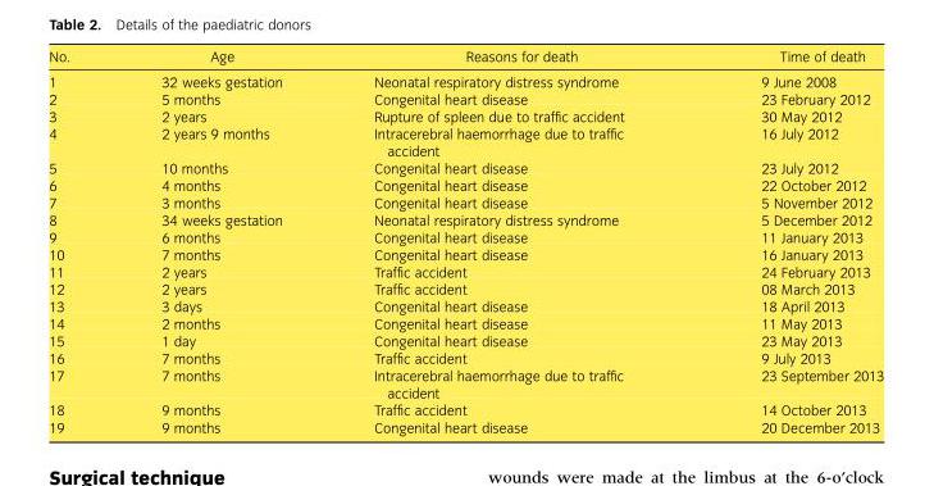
<table><thead><tr><td>No.</td><td>Age</td><td>Reasons for death</td><td>Time of death</td></tr></thead><tbody><tr><td>1</td><td>32 weeks gestation</td><td>Neonatal respiratory distress syndrome</td><td>9 June 2008</td></tr><tr><td>2</td><td>5 months</td><td>Congenital heart disease</td><td>23 February 2012</td></tr><tr><td>3</td><td>2 years</td><td>Rupture of spleen due to traffic accident</td><td>30 May 2012</td></tr><tr><td>4</td><td>2 years 9 months</td><td>Intracerebral haemorrhage due to traffic accident</td><td>16 July 2012</td></tr><tr><td>5</td><td>10 months</td><td>Congenital heart disease</td><td>23 July 2012</td></tr><tr><td>6</td><td>4 months</td><td>Congenital heart disease</td><td>22 October 2012</td></tr><tr><td>7</td><td>3 months</td><td>Congenital heart disease</td><td>5 November 2012</td></tr><tr><td>8</td><td>34 weeks gestation</td><td>Neonatal respiratory distress syndrome</td><td>5 December 2012</td></tr><tr><td>9</td><td>6 months</td><td>Congenital heart disease</td><td>11 January 2013</td></tr><tr><td>10</td><td>7 months</td><td>Congenital heart disease</td><td>16 January 2013</td></tr><tr><td>11</td><td>2 years</td><td>Traffic accident</td><td>24 February 2013</td></tr><tr><td>12</td><td>2 years</td><td>Traffic accident</td><td>08 March 2013</td></tr><tr><td>13</td><td>3 days</td><td>Congenital heart disease</td><td>18 April 2013</td></tr><tr><td>14</td><td>2 months</td><td>Congenital heart disease</td><td>11 May 2013</td></tr><tr><td>15</td><td>1 day</td><td>Congenital heart disease</td><td>23 May 2013</td></tr><tr><td>16</td><td>7 months</td><td>Traffic accident</td><td>9 July 2013</td></tr><tr><td>17</td><td>7 months</td><td>Intracerebral haemorrhage due to traffic accident</td><td>23 September 2013</td></tr><tr><td>18</td><td>9 months</td><td>Traffic accident</td><td>14 October 2013</td></tr><tr><td>19</td><td>9 months</td><td>Congenital heart disease</td><td>20 December 2013</td></tr></tbody></table>